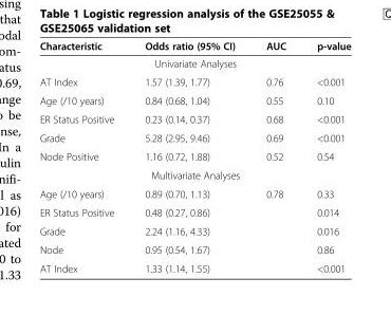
<table><thead><tr><td>Characteristic</td><td>Odds ratio (95% CI)</td><td>AUC</td><td>p-value</td></tr></thead><tbody><tr><td colspan="4">Univariate Analyses</td></tr><tr><td>AT Index</td><td>1.57 (1.39, 1.77)</td><td>0.76</td><td>&lt;0.001</td></tr><tr><td>Age (/10 years)</td><td>0.84 (0.68, 1.04)</td><td>0.55</td><td>0.10</td></tr><tr><td>ER Status Positive</td><td>0.23 (0.14, 0.37)</td><td>0.68</td><td>&lt;0.001</td></tr><tr><td>Grade</td><td>5.28 (2.95, 9.46)</td><td>0.69</td><td>&lt;0.001</td></tr><tr><td>Node Positive</td><td>1.16 (0.72, 1.88)</td><td>0.52</td><td>0.54</td></tr><tr><td colspan="4">Multivariate Analyses</td></tr><tr><td>Age (/10 years)</td><td>0.89 (0.70, 1.13)</td><td>0.78</td><td>0.33</td></tr><tr><td>ER Status Positive</td><td>0.48 (0.27, 0.86)</td><td></td><td>0.014</td></tr><tr><td>Grade</td><td>2.24 (1.16, 4.33)</td><td></td><td>0.016</td></tr><tr><td>Node</td><td>0.95 (0.54, 1.67)</td><td></td><td>0.86</td></tr><tr><td>AT Index</td><td>1.33 (1.14, 1.55)</td><td></td><td>&lt;0.001</td></tr></tbody></table>